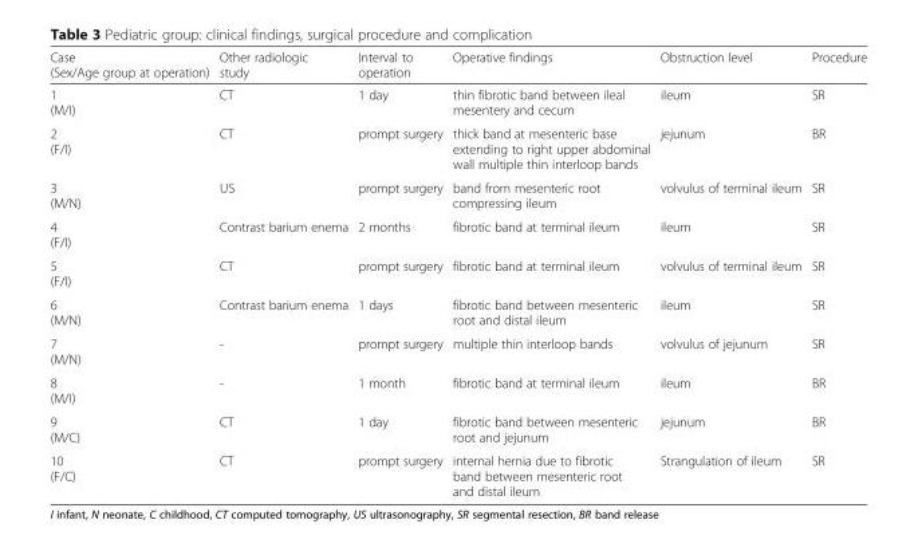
<table><thead><tr><td>Case (Sex/Age group at operation)</td><td>Other radiologic study</td><td>Interval to operation</td><td>Operative findings</td><td>Obstruction level</td><td>Procedure</td></tr></thead><tbody><tr><td>1 (M/I)</td><td>CT</td><td>1 day</td><td>thin fibrotic band between ileal mesentery and cecum</td><td>ileum</td><td>SR</td></tr><tr><td>2 (F/I)</td><td>CT</td><td>prompt surgery</td><td>thick band at mesenteric base extending to right upper abdominal wall multiple thin interloop bands</td><td>jejunum</td><td>BR</td></tr><tr><td>3 (M/N)</td><td>US</td><td>prompt surgery</td><td>band from mesenteric root compressing ileum</td><td>volvulus of terminal ileum</td><td>SR</td></tr><tr><td>4 (F/I)</td><td>Contrast barium enema</td><td>2 months</td><td>fibrotic band at terminal ileum</td><td>ileum</td><td>SR</td></tr><tr><td>5 (F/I)</td><td>CT</td><td>prompt surgery</td><td>fibrotic band at terminal ileum</td><td>volvulus of terminal ileum</td><td>SR</td></tr><tr><td>6 (M/N)</td><td>Contrast barium enema</td><td>1 days</td><td>fibrotic band between mesenteric root and distal ileum</td><td>ileum</td><td>SR</td></tr><tr><td>7 (M/N)</td><td>-</td><td>prompt surgery</td><td>multiple thin interloop bands</td><td>volvulus of jejunum</td><td>SR</td></tr><tr><td>8 (M/I)</td><td>-</td><td>1 month</td><td>fibrotic band at terminal ileum</td><td>ileum</td><td>BR</td></tr><tr><td>9 (M/C)</td><td>CT</td><td>1 day</td><td>fibrotic band between mesenteric root and jejunum</td><td>jejunum</td><td>BR</td></tr><tr><td>10 (F/C)</td><td>CT</td><td>prompt surgery</td><td>internal hernia due to fibrotic band between mesenteric root and distal ileum</td><td>Strangulation of ileum</td><td>SR</td></tr></tbody></table>